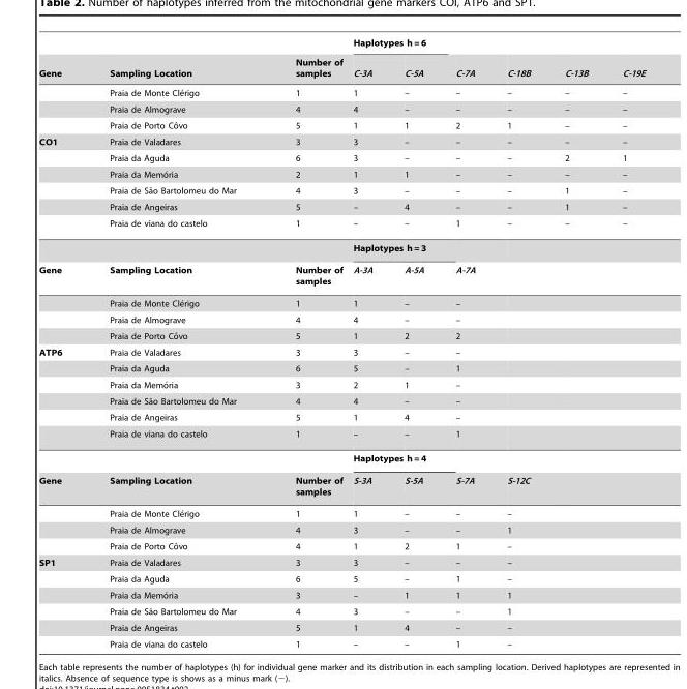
<table><thead><tr><td rowspan="2">Gene</td><td rowspan="2">Sampling Location</td><td rowspan="2">Number of samples</td><td colspan="2">Haplotypes h = 6</td><td rowspan="2">C-7A</td><td rowspan="2">C-18B</td><td rowspan="2">C-13B</td><td rowspan="2">C-19E</td></tr><tr><td>C-3A</td><td>C-5A</td></tr></thead><tbody><tr><td></td><td>Praia de Monte Cle´rigo</td><td>1</td><td>1</td><td>–</td><td>–</td><td>–</td><td>–</td><td>–</td></tr><tr><td></td><td>Praia de Almograve</td><td>4</td><td>4</td><td>–</td><td>–</td><td>–</td><td>–</td><td>–</td></tr><tr><td></td><td>Praia de Porto Coˆvo</td><td>5</td><td>1</td><td>1</td><td>2</td><td>1</td><td>–</td><td>–</td></tr><tr><td rowspan="7">CO1</td><td>Praia de Valadares</td><td>3</td><td>3</td><td>–</td><td>–</td><td>–</td><td>–</td><td>–</td></tr><tr><td>Praia da Aguda</td><td>6</td><td>3</td><td>–</td><td>–</td><td>–</td><td>2</td><td>1</td></tr><tr><td>Praia da Memo´ria</td><td>2</td><td>1</td><td>1</td><td>–</td><td>–</td><td>–</td><td>–</td></tr><tr><td>Praia de Sa˜o Bartolomeu do Mar</td><td>4</td><td>3</td><td>–</td><td>–</td><td>–</td><td>1</td><td>–</td></tr><tr><td>Praia de Angeiras</td><td>5</td><td>–</td><td>4</td><td>–</td><td>–</td><td>1</td><td>–</td></tr><tr><td>Praia de viana do castelo</td><td>1</td><td>–</td><td>–</td><td>1</td><td>–</td><td>–</td><td>–</td></tr><tr><td></td><td></td><td colspan="2">Haplotypes h = 3</td><td></td><td></td><td></td><td></td></tr><tr><td rowspan="4">Gene</td><td>Sampling Location</td><td>Number of samples</td><td>A-3A</td><td>A-5A</td><td>A-7A</td><td></td><td></td><td></td></tr><tr><td>Praia de Monte Cle´rigo</td><td>1</td><td>1</td><td>–</td><td>–</td><td></td><td></td><td></td></tr><tr><td>Praia de Almograve</td><td>4</td><td>4</td><td>–</td><td>–</td><td></td><td></td><td></td></tr><tr><td>Praia de Porto Coˆvo</td><td>5</td><td>1</td><td>2</td><td>2</td><td></td><td></td><td></td></tr><tr><td rowspan="7">ATP6</td><td>Praia de Valadares</td><td>3</td><td>3</td><td>–</td><td>–</td><td></td><td></td><td></td></tr><tr><td>Praia da Aguda</td><td>6</td><td>5</td><td>–</td><td>1</td><td></td><td></td><td></td></tr><tr><td>Praia da Memo´ria</td><td>3</td><td>2</td><td>1</td><td>–</td><td></td><td></td><td></td></tr><tr><td>Praia de Sa˜o Bartolomeu do Mar</td><td>4</td><td>4</td><td>–</td><td>–</td><td></td><td></td><td></td></tr><tr><td>Praia de Angeiras</td><td>5</td><td>1</td><td>4</td><td>–</td><td></td><td></td><td></td></tr><tr><td>Praia de viana do castelo</td><td>1</td><td>–</td><td>–</td><td>1</td><td></td><td></td><td></td></tr><tr><td></td><td></td><td colspan="2">Haplotypes h = 4</td><td></td><td></td><td></td><td></td></tr><tr><td rowspan="4">Gene</td><td>Sampling Location</td><td>Number of samples</td><td>S-3A</td><td>S-5A</td><td>S-7A</td><td>S-12C</td><td></td><td></td></tr><tr><td>Praia de Monte Cle´rigo</td><td>1</td><td>1</td><td>–</td><td>–</td><td>–</td><td></td><td></td></tr><tr><td>Praia de Almograve</td><td>4</td><td>3</td><td>–</td><td>–</td><td>1</td><td></td><td></td></tr><tr><td>Praia de Porto Coˆvo</td><td>4</td><td>1</td><td>2</td><td>1</td><td>–</td><td></td><td></td></tr><tr><td rowspan="6">SP1</td><td>Praia de Valadares</td><td>3</td><td>3</td><td>–</td><td>–</td><td>–</td><td></td><td></td></tr><tr><td>Praia da Aguda</td><td>6</td><td>5</td><td>–</td><td>1</td><td>–</td><td></td><td></td></tr><tr><td>Praia da Memo´ria</td><td>3</td><td>–</td><td>1</td><td>1</td><td>1</td><td></td><td></td></tr><tr><td>Praia de Sa˜o Bartolomeu do Mar</td><td>4</td><td>3</td><td>–</td><td>–</td><td>1</td><td></td><td></td></tr><tr><td>Praia de Angeiras</td><td>5</td><td>1</td><td>4</td><td>–</td><td>–</td><td></td><td></td></tr><tr><td>Praia de viana do castelo</td><td>1</td><td>–</td><td>–</td><td>1</td><td>–</td><td></td><td></td></tr></tbody></table>